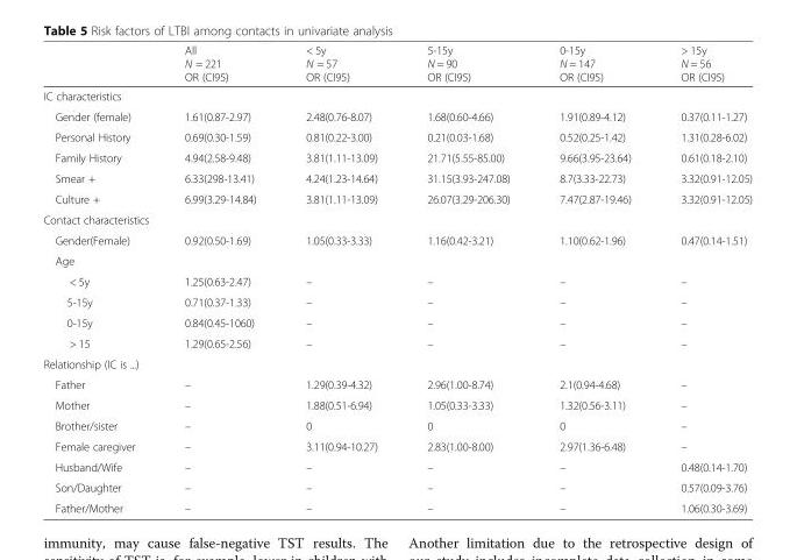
<table><thead><tr><td></td><td>All N = 221 OR (CI95)</td><td>&lt; 5y N = 57 OR (CI95)</td><td>5-15y N = 90 OR (CI95)</td><td>0-15y N = 147 OR (CI95)</td><td>&gt; 15y N = 56 OR (CI95)</td></tr></thead><tbody><tr><td colspan="6">IC characteristics</td></tr><tr><td>Gender (female)</td><td>1.61(0.87-2.97)</td><td>2.48(0.76-8.07)</td><td>1.68(0.60-4.66)</td><td>1.91(0.89-4.12)</td><td>0.37(0.11-1.27)</td></tr><tr><td>Personal History</td><td>0.69(0.30-1.59)</td><td>0.81(0.22-3.00)</td><td>0.21(0.03-1.68)</td><td>0.52(0.25-1.42)</td><td>1.31(0.28-6.02)</td></tr><tr><td>Family History</td><td>4.94(2.58-9.48)</td><td>3.81(1.11-13.09)</td><td>21.71(5.55-85.00)</td><td>9.66(3.95-23.64)</td><td>0.61(0.18-2.10)</td></tr><tr><td>Smear +</td><td>6.33(298-13.41)</td><td>4.24(1.23-14.64)</td><td>31.15(3.93-247.08)</td><td>8.7(3.33-22.73)</td><td>3.32(0.91-12.05)</td></tr><tr><td>Culture +</td><td>6.99(3.29-14.84)</td><td>3.81(1.11-13.09)</td><td>26.07(3.29-206.30)</td><td>7.47(2.87-19.46)</td><td>3.32(0.91-12.05)</td></tr><tr><td colspan="6">Contact characteristics</td></tr><tr><td>Gender(Female)</td><td>0.92(0.50-1.69)</td><td>1.05(0.33-3.33)</td><td>1.16(0.42-3.21)</td><td>1.10(0.62-1.96)</td><td>0.47(0.14-1.51)</td></tr><tr><td colspan="6">Age</td></tr><tr><td>&lt; 5y</td><td>1.25(0.63-2.47)</td><td>–</td><td>–</td><td>–</td><td>–</td></tr><tr><td>5-15y</td><td>0.71(0.37-1.33)</td><td>–</td><td>–</td><td>–</td><td>–</td></tr><tr><td>0-15y</td><td>0.84(0.45-1060)</td><td>–</td><td>–</td><td>–</td><td>–</td></tr><tr><td>&gt; 15</td><td>1.29(0.65-2.56)</td><td>–</td><td>–</td><td>–</td><td>–</td></tr><tr><td colspan="6">Relationship (IC is ...)</td></tr><tr><td>Father</td><td>–</td><td>1.29(0.39-4.32)</td><td>2.96(1.00-8.74)</td><td>2.1(0.94-4.68)</td><td>–</td></tr><tr><td>Mother</td><td>–</td><td>1.88(0.51-6.94)</td><td>1.05(0.33-3.33)</td><td>1.32(0.56-3.11)</td><td>–</td></tr><tr><td>Brother/sister</td><td>–</td><td>0</td><td>0</td><td>0</td><td>–</td></tr><tr><td>Female caregiver</td><td>–</td><td>3.11(0.94-10.27)</td><td>2.83(1.00-8.00)</td><td>2.97(1.36-6.48)</td><td>–</td></tr><tr><td>Husband/Wife</td><td>–</td><td>–</td><td>–</td><td>–</td><td>0.48(0.14-1.70)</td></tr><tr><td>Son/Daughter</td><td>–</td><td>–</td><td>–</td><td>–</td><td>0.57(0.09-3.76)</td></tr><tr><td>Father/Mother</td><td>–</td><td>–</td><td>–</td><td>–</td><td>1.06(0.30-3.69)</td></tr></tbody></table>